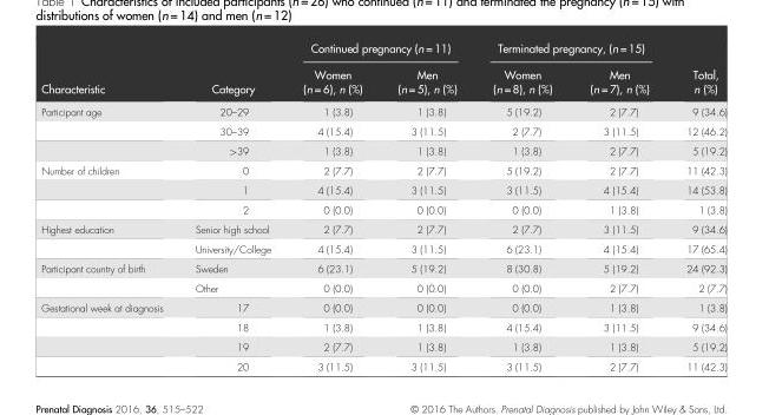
<table><thead><tr><td rowspan="2">Characteristic</td><td rowspan="2">Category</td><td colspan="2">Continued pregnancy (n = 11)</td><td colspan="2">Terminated pregnancy, (n = 15)</td><td rowspan="2">Total, n (%)</td></tr><tr><td>Women (n = 6), n (%)</td><td>Men (n = 5), n (%)</td><td>Women (n = 8), n (%)</td><td>Men (n = 7), n (%)</td></tr></thead><tbody><tr><td rowspan="3">Participant age</td><td>20–29</td><td>1 (3.8)</td><td>1 (3.8)</td><td>5 (19.2)</td><td>2 (7.7)</td><td>9 (34.6)</td></tr><tr><td>30–39</td><td>4 (15.4)</td><td>3 (11.5)</td><td>2 (7.7)</td><td>3 (11.5)</td><td>12 (46.2)</td></tr><tr><td>&gt;39</td><td>1 (3.8)</td><td>1 (3.8)</td><td>1 (3.8)</td><td>2 (7.7)</td><td>5 (19.2)</td></tr><tr><td rowspan="3">Number of children</td><td>0</td><td>2 (7.7)</td><td>2 (7.7)</td><td>5 (19.2)</td><td>2 (7.7)</td><td>11 (42.3)</td></tr><tr><td>1</td><td>4 (15.4)</td><td>3 (11.5)</td><td>3 (11.5)</td><td>4 (15.4)</td><td>14 (53.8)</td></tr><tr><td>2</td><td>0 (0.0)</td><td>0 (0.0)</td><td>0 (0.0)</td><td>1 (3.8)</td><td>1 (3.8)</td></tr><tr><td rowspan="2">Highest education</td><td>Senior high school</td><td>2 (7.7)</td><td>2 (7.7)</td><td>2 (7.7)</td><td>3 (11.5)</td><td>9 (34.6)</td></tr><tr><td>University/College</td><td>4 (15.4)</td><td>3 (11.5)</td><td>6 (23.1)</td><td>4 (15.4)</td><td>17 (65.4)</td></tr><tr><td rowspan="2">Participant country of birth</td><td>Sweden</td><td>6 (23.1)</td><td>5 (19.2)</td><td>8 (30.8)</td><td>5 (19.2)</td><td>24 (92.3)</td></tr><tr><td>Other</td><td>0 (0.0)</td><td>0 (0.0)</td><td>0 (0.0)</td><td>2 (7.7)</td><td>2 (7.7)</td></tr><tr><td rowspan="4">Gestational week at diagnosis</td><td>17</td><td>0 (0.0)</td><td>0 (0.0)</td><td>0 (0.0)</td><td>1 (3.8)</td><td>1 (3.8)</td></tr><tr><td>18</td><td>1 (3.8)</td><td>1 (3.8)</td><td>4 (15.4)</td><td>3 (11.5)</td><td>9 (34.6)</td></tr><tr><td>19</td><td>2 (7.7)</td><td>1 (3.8)</td><td>1 (3.8)</td><td>1 (3.8)</td><td>5 (19.2)</td></tr><tr><td>20</td><td>3 (11.5)</td><td>3 (11.5)</td><td>3 (11.5)</td><td>2 (7.7)</td><td>11 (42.3)</td></tr></tbody></table>